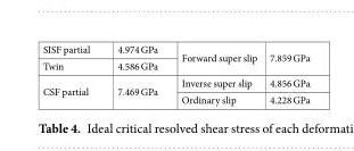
<table><tbody><tr><td>SISF partial</td><td>4.974 GPa</td><td rowspan="2">Forward super slip</td><td rowspan="2">7.859 GPa</td></tr><tr><td>Twin</td><td>4.586 GPa</td></tr><tr><td rowspan="2">CSF partial</td><td rowspan="2">7.469 GPa</td><td>Inverse super slip</td><td>4.856 GPa</td></tr><tr><td>Ordinary slip</td><td>4.228 GPa</td></tr></tbody></table>